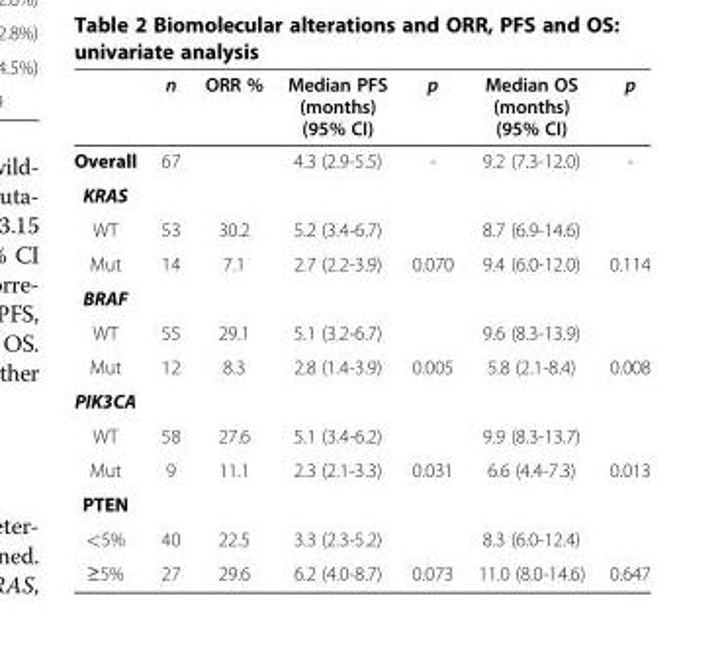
<table><thead><tr><td></td><td>n</td><td>ORR %</td><td>Median PFS (months) (95% CI)</td><td>p</td><td>Median OS (months) (95% CI)</td><td>p</td></tr></thead><tbody><tr><td>Overall</td><td>67</td><td></td><td>4.3 (2.9-5.5)</td><td>-</td><td>9.2 (7.3-12.0)</td><td>-</td></tr><tr><td colspan="7">KRAS</td></tr><tr><td>WT</td><td>53</td><td>30.2</td><td>5.2 (3.4-6.7)</td><td></td><td>8.7 (6.9-14.6)</td><td></td></tr><tr><td>Mut</td><td>14</td><td>7.1</td><td>2.7 (2.2-3.9)</td><td>0.070</td><td>9.4 (6.0-12.0)</td><td>0.114</td></tr><tr><td colspan="7">BRAF</td></tr><tr><td>WT</td><td>55</td><td>29.1</td><td>5.1 (3.2-6.7)</td><td></td><td>9.6 (8.3-13.9)</td><td></td></tr><tr><td>Mut</td><td>12</td><td>8.3</td><td>2.8 (1.4-3.9)</td><td>0.005</td><td>5.8 (2.1-8.4)</td><td>0.008</td></tr><tr><td colspan="7">PIK3CA</td></tr><tr><td>WT</td><td>58</td><td>27.6</td><td>5.1 (3.4-6.2)</td><td></td><td>9.9 (8.3-13.7)</td><td></td></tr><tr><td>Mut</td><td>9</td><td>11.1</td><td>2.3 (2.1-3.3)</td><td>0.031</td><td>6.6 (4.4-7.3)</td><td>0.013</td></tr><tr><td colspan="7">PTEN</td></tr><tr><td>&lt;5%</td><td>40</td><td>22.5</td><td>3.3 (2.3-5.2)</td><td></td><td>8.3 (6.0-12.4)</td><td></td></tr><tr><td>≥5%</td><td>27</td><td>29.6</td><td>6.2 (4.0-8.7)</td><td>0.073</td><td>11.0 (8.0-14.6)</td><td>0.647</td></tr></tbody></table>